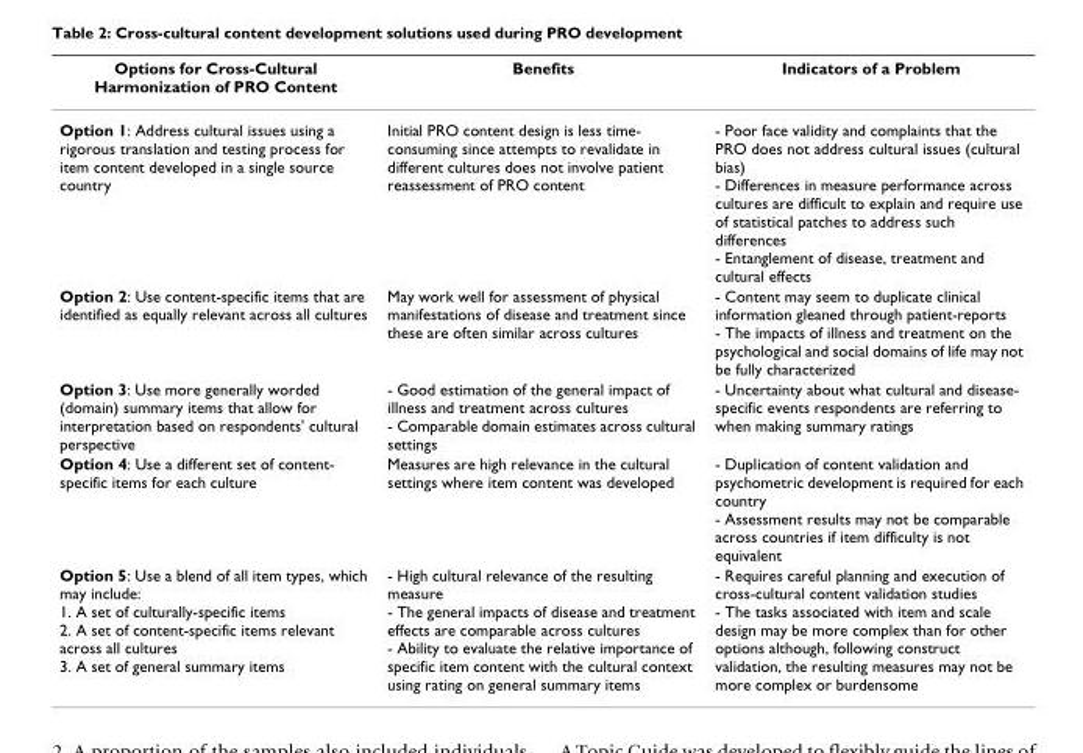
<table><thead><tr><td>Options for Cross-Cultural Harmonization of PRO Content</td><td>Benefits</td><td>Indicators of a Problem</td></tr></thead><tbody><tr><td>Option 1: Address cultural issues using a rigorous translation and testing process for item content developed in a single source country</td><td>Initial PRO content design is less time- consuming since attempts to revalidate in different cultures does not involve patient reassessment of PRO content</td><td>- Poor face validity and complaints that the PRO does not address cultural issues (cultural bias) - Differences in measure performance across cultures are difficult to explain and require use of statistical patches to address such differences - Entanglement of disease, treatment and cultural effects</td></tr><tr><td>Option 2: Use content-specific items that are identified as equally relevant across all cultures</td><td>May work well for assessment of physical manifestations of disease and treatment since these are often similar across cultures</td><td>- Content may seem to duplicate clinical information gleaned through patient-reports - The impacts of illness and treatment on the psychological and social domains of life may not be fully characterized</td></tr><tr><td>Option 3: Use more generally worded (domain) summary items that allow for interpretation based on respondents&#x27; cultural perspective</td><td>- Good estimation of the general impact of illness and treatment across cultures - Comparable domain estimates across cultural settings</td><td>- Uncertainty about what cultural and disease- specific events respondents are referring to when making summary ratings</td></tr><tr><td>Option 4: Use a different set of content- specific items for each culture</td><td>Measures are high relevance in the cultural settings where item content was developed</td><td>- Duplication of content validation and psychometric development is required for each country - Assessment results may not be comparable across countries if item difficulty is not equivalent</td></tr><tr><td>Option 5: Use a blend of all item types, which may include: 1. A set of culturally-specific items 2. A set of content-specific items relevant across all cultures 3. A set of general summary items</td><td>- High cultural relevance of the resulting measure - The general impacts of disease and treatment effects are comparable across cultures - Ability to evaluate the relative importance of specific item content with the cultural context using rating on general summary items</td><td>- Requires careful planning and execution of cross-cultural content validation studies - The tasks associated with item and scale design may be more complex than for other options although, following construct validation, the resulting measures may not be more complex or burdensome</td></tr></tbody></table>